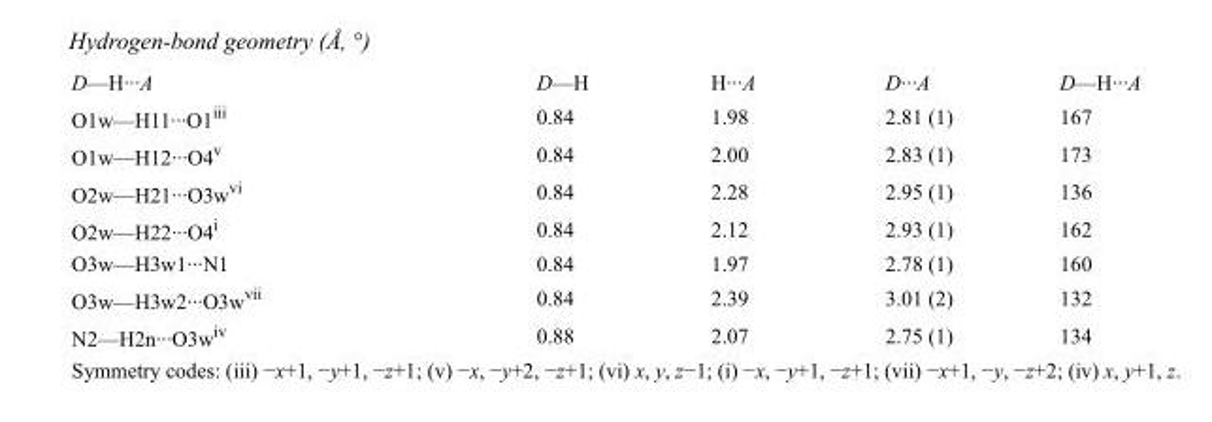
<table><tbody><tr><td>D—H···A</td><td>D—H</td><td>H···A</td><td>D···A</td><td>D—H···A</td></tr><tr><td>O1w—H11···O1<sup>iii</sup></td><td>0.84</td><td>1.98</td><td>2.81 (1)</td><td>167</td></tr><tr><td>O1w—H12···O4<sup>v</sup></td><td>0.84</td><td>2.00</td><td>2.83 (1)</td><td>173</td></tr><tr><td>O2w—H21···O3w<sup>vi</sup></td><td>0.84</td><td>2.28</td><td>2.95 (1)</td><td>136</td></tr><tr><td>O2w—H22···O4<sup>i</sup></td><td>0.84</td><td>2.12</td><td>2.93 (1)</td><td>162</td></tr><tr><td>O3w—H3w1···N1</td><td>0.84</td><td>1.97</td><td>2.78 (1)</td><td>160</td></tr><tr><td>O3w—H3w2···O3w<sup>vii</sup></td><td>0.84</td><td>2.39</td><td>3.01 (2)</td><td>132</td></tr><tr><td>N2—H2n···O3w<sup>iv</sup></td><td>0.88</td><td>2.07</td><td>2.75 (1)</td><td>134</td></tr></tbody></table>